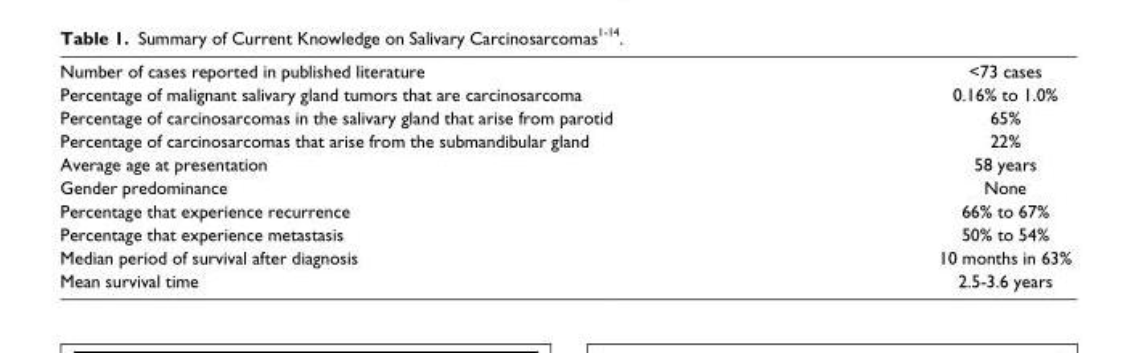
<table><tbody><tr><td>Number of cases reported in published literature</td><td>&lt;73 cases</td></tr><tr><td>Percentage of malignant salivary gland tumors that are carcinosarcoma</td><td>0.16% to 1.0%</td></tr><tr><td>Percentage of carcinosarcomas in the salivary gland that arise from parotid</td><td>65%</td></tr><tr><td>Percentage of carcinosarcomas that arise from the submandibular gland</td><td>22%</td></tr><tr><td>Average age at presentation</td><td>58 years</td></tr><tr><td>Gender predominance</td><td>None</td></tr><tr><td>Percentage that experience recurrence</td><td>66% to 67%</td></tr><tr><td>Percentage that experience metastasis</td><td>50% to 54%</td></tr><tr><td>Median period of survival after diagnosis</td><td>10 months in 63%</td></tr><tr><td>Mean survival time</td><td>2.5-3.6 years</td></tr></tbody></table>